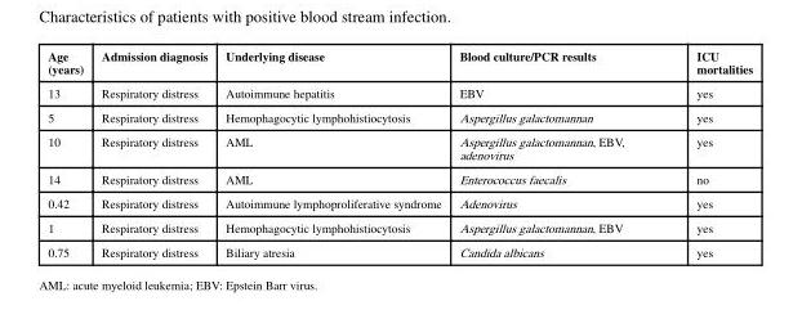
<table><thead><tr><td>Age (years)</td><td>Admission diagnosis</td><td>Underlying disease</td><td>Blood culture/PCR results</td><td>ICU mortalities</td></tr></thead><tbody><tr><td>13</td><td>Respiratory distress</td><td>Autoimmune hepatitis</td><td>EBV</td><td>yes</td></tr><tr><td>5</td><td>Respiratory distress</td><td>Hemophagocytic lymphohistiocytosis</td><td>Aspergillus galactomannan</td><td>yes</td></tr><tr><td>10</td><td>Respiratory distress</td><td>AML</td><td>Aspergillus galactomannan, EBV, adenovirus</td><td>yes</td></tr><tr><td>14</td><td>Respiratory distress</td><td>AML</td><td>Enterococcus faecalis</td><td>no</td></tr><tr><td>0.42</td><td>Respiratory distress</td><td>Autoimmune lymphoproliferative syndrome</td><td>Adenovirus</td><td>yes</td></tr><tr><td>1</td><td>Respiratory distress</td><td>Hemophagocytic lymphohistiocytosis</td><td>Aspergillus galactomannan, EBV</td><td>yes</td></tr><tr><td>0.75</td><td>Respiratory distress</td><td>Biliary atresia</td><td>Candida albicans</td><td>yes</td></tr></tbody></table>